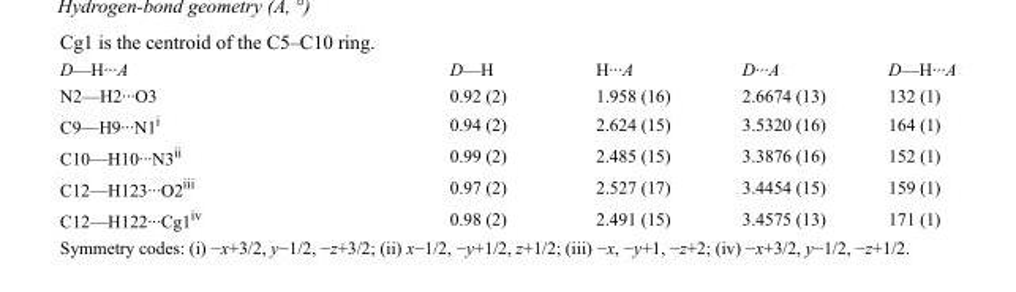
<table><tbody><tr><td>D—H···A</td><td>D—H</td><td>H···A</td><td>D···A</td><td>D—H···A</td></tr><tr><td>N2—H2···O3</td><td>0.92 (2)</td><td>1.958 (16)</td><td>2.6674 (13)</td><td>132 (1)</td></tr><tr><td>C9—H9···N1<sup>i</sup></td><td>0.94 (2)</td><td>2.624 (15)</td><td>3.5320 (16)</td><td>164 (1)</td></tr><tr><td>C10—H10···N3<sup>ii</sup></td><td>0.99 (2)</td><td>2.485 (15)</td><td>3.3876 (16)</td><td>152 (1)</td></tr><tr><td>C12—H123···O2<sup>iii</sup></td><td>0.97 (2)</td><td>2.527 (17)</td><td>3.4454 (15)</td><td>159 (1)</td></tr><tr><td>C12—H122···Cg1<sup>iv</sup></td><td>0.98 (2)</td><td>2.491 (15)</td><td>3.4575 (13)</td><td>171 (1)</td></tr></tbody></table>